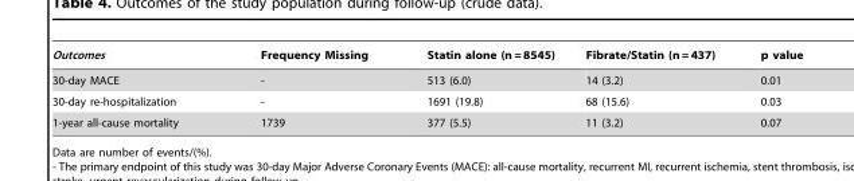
<table><thead><tr><td>Outcomes</td><td>Frequency Missing</td><td>Statin alone (n = 8545)</td><td>Fibrate/Statin (n = 437)</td><td>p value</td></tr></thead><tbody><tr><td>30-day MACE</td><td>-</td><td>513 (6.0)</td><td>14 (3.2)</td><td>0.01</td></tr><tr><td>30-day re-hospitalization</td><td>-</td><td>1691 (19.8)</td><td>68 (15.6)</td><td>0.03</td></tr><tr><td>1-year all-cause mortality</td><td>1739</td><td>377 (5.5)</td><td>11 (3.2)</td><td>0.07</td></tr></tbody></table>